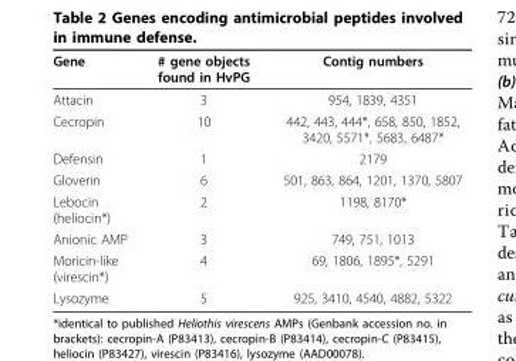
<table><thead><tr><td>Gene</td><td># gene objects found in HvPG</td><td>Contig numbers</td></tr></thead><tbody><tr><td>Attacin</td><td>3</td><td>954, 1839, 4351</td></tr><tr><td>Cecropin</td><td>10</td><td>442, 443, 444*, 658, 850, 1852, 3420, 5571*, 5683, 6487*</td></tr><tr><td>Defensin</td><td>1</td><td>2179</td></tr><tr><td>Gloverin</td><td>6</td><td>501, 863, 864, 1201, 1370, 5807</td></tr><tr><td>Lebocin (heliocin*)</td><td>2</td><td>1198, 8170*</td></tr><tr><td>Anionic AMP</td><td>3</td><td>749, 751, 1013</td></tr><tr><td>Moricin-like (virescin*)</td><td>4</td><td>69, 1806, 1895*, 5291</td></tr><tr><td>Lysozyme</td><td>5</td><td>925, 3410, 4540, 4882, 5322</td></tr></tbody></table>